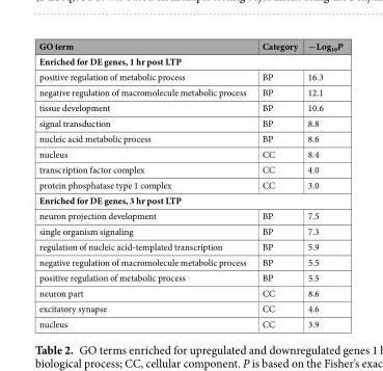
<table><thead><tr><td>GO term</td><td>Category</td><td>−Log<sub>10</sub>P</td></tr></thead><tbody><tr><td colspan="3">Enriched for DE genes, 1 hr post LTP</td></tr><tr><td>positive regulation of metabolic process</td><td>BP</td><td>16.3</td></tr><tr><td>negative regulation of macromolecule metabolic process</td><td>BP</td><td>12.1</td></tr><tr><td>tissue development</td><td>BP</td><td>10.6</td></tr><tr><td>signal transduction</td><td>BP</td><td>8.8</td></tr><tr><td>nucleic acid metabolic process</td><td>BP</td><td>8.6</td></tr><tr><td>nucleus</td><td>CC</td><td>8.4</td></tr><tr><td>transcription factor complex</td><td>CC</td><td>4.0</td></tr><tr><td>protein phosphatase type 1 complex</td><td>CC</td><td>3.0</td></tr><tr><td colspan="3">Enriched for DE genes, 3 hr post LTP</td></tr><tr><td>neuron projection development</td><td>BP</td><td>7.5</td></tr><tr><td>single organism signaling</td><td>BP</td><td>7.3</td></tr><tr><td>regulation of nucleic acid-templated transcription</td><td>BP</td><td>5.9</td></tr><tr><td>negative regulation of macromolecule metabolic process</td><td>BP</td><td>5.5</td></tr><tr><td>positive regulation of metabolic process</td><td>BP</td><td>5.5</td></tr><tr><td>neuron part</td><td>CC</td><td>8.6</td></tr><tr><td>excitatory synapse</td><td>CC</td><td>4.6</td></tr><tr><td>nucleus</td><td>CC</td><td>3.9</td></tr></tbody></table>